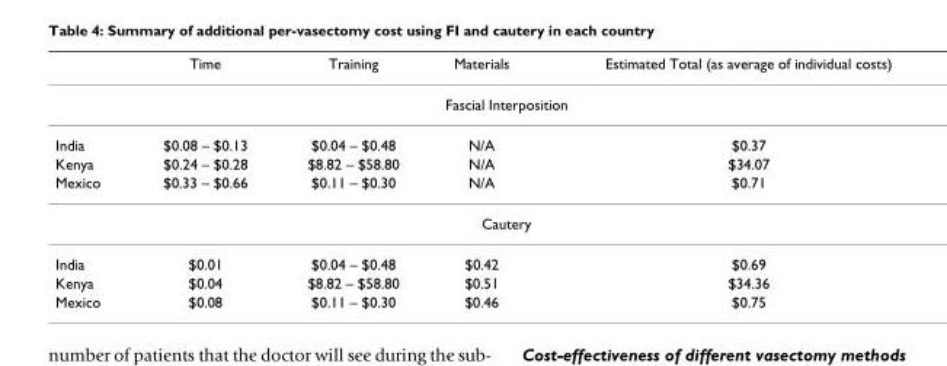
<table><thead><tr><td></td><td>Time</td><td>Training</td><td>Materials</td><td>Estimated Total (as average of individual costs)</td></tr></thead><tbody><tr><td colspan="5">Fascial Interposition</td></tr><tr><td>India</td><td>$0.08 – $0.13</td><td>$0.04 – $0.48</td><td>N/A</td><td>$0.37</td></tr><tr><td>Kenya</td><td>$0.24 – $0.28</td><td>$8.82 – $58.80</td><td>N/A</td><td>$34.07</td></tr><tr><td>Mexico</td><td>$0.33 – $0.66</td><td>$0.11 – $0.30</td><td>N/A</td><td>$0.71</td></tr><tr><td colspan="5">Cautery</td></tr><tr><td>India</td><td>$0.01</td><td>$0.04 – $0.48</td><td>$0.42</td><td>$0.69</td></tr><tr><td>Kenya</td><td>$0.04</td><td>$8.82 – $58.80</td><td>$0.51</td><td>$34.36</td></tr><tr><td>Mexico</td><td>$0.08</td><td>$0.11 – $0.30</td><td>$0.46</td><td>$0.75</td></tr></tbody></table>